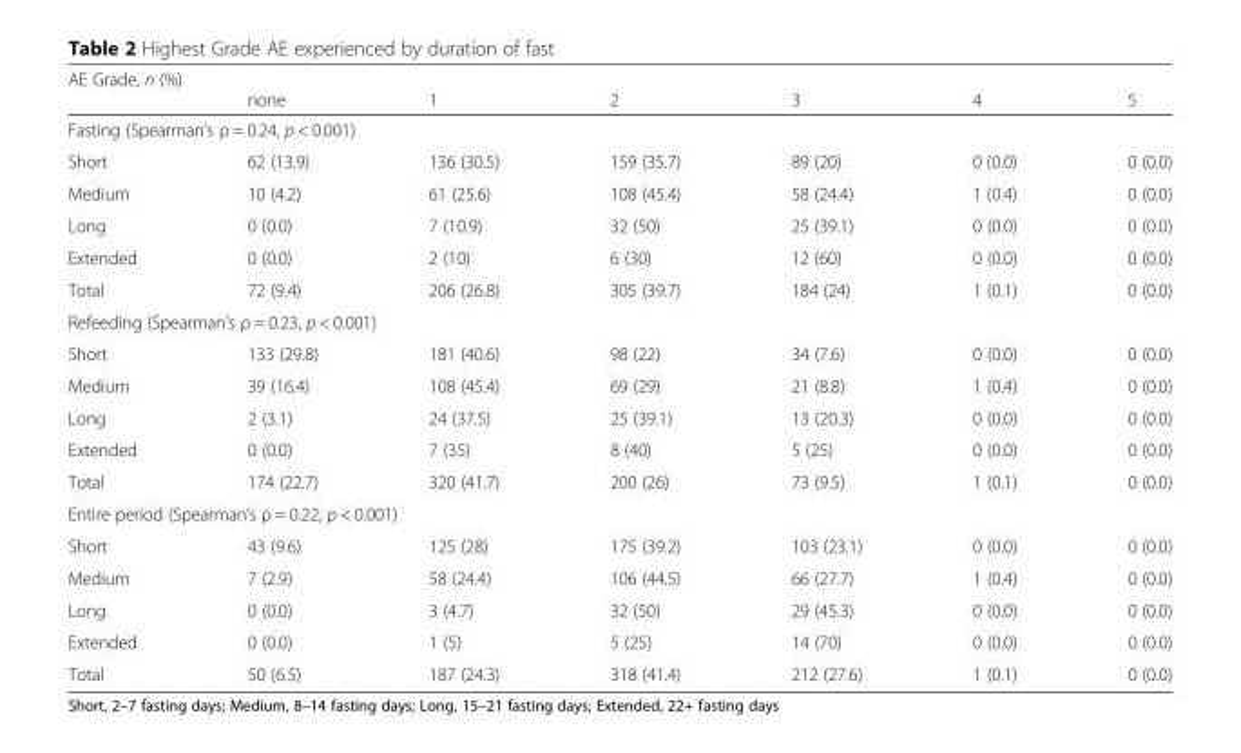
<table><thead><tr><td colspan="7">AE Grade, n (%)</td></tr><tr><td></td><td>none</td><td>1</td><td>2</td><td>3</td><td>4</td><td>5</td></tr></thead><tbody><tr><td colspan="7">Fasting (Spearman’s ρ = 0.24, p &lt; 0.001)</td></tr><tr><td>Short</td><td>62 (13.9)</td><td>136 (30.5)</td><td>159 (35.7)</td><td>89 (20)</td><td>0 (0.0)</td><td>0 (0.0)</td></tr><tr><td>Medium</td><td>10 (4.2)</td><td>61 (25.6)</td><td>108 (45.4)</td><td>58 (24.4)</td><td>1 (0.4)</td><td>0 (0.0)</td></tr><tr><td>Long</td><td>0 (0.0)</td><td>7 (10.9)</td><td>32 (50)</td><td>25 (39.1)</td><td>0 (0.0)</td><td>0 (0.0)</td></tr><tr><td>Extended</td><td>0 (0.0)</td><td>2 (10)</td><td>6 (30)</td><td>12 (60)</td><td>0 (0.0)</td><td>0 (0.0)</td></tr><tr><td>Total</td><td>72 (9.4)</td><td>206 (26.8)</td><td>305 (39.7)</td><td>184 (24)</td><td>1 (0.1)</td><td>0 (0.0)</td></tr><tr><td colspan="7">Refeeding (Spearman’s ρ = 0.23, p &lt; 0.001)</td></tr><tr><td>Short</td><td>133 (29.8)</td><td>181 (40.6)</td><td>98 (22)</td><td>34 (7.6)</td><td>0 (0.0)</td><td>0 (0.0)</td></tr><tr><td>Medium</td><td>39 (16.4)</td><td>108 (45.4)</td><td>69 (29)</td><td>21 (8.8)</td><td>1 (0.4)</td><td>0 (0.0)</td></tr><tr><td>Long</td><td>2 (3.1)</td><td>24 (37.5)</td><td>25 (39.1)</td><td>13 (20.3)</td><td>0 (0.0)</td><td>0 (0.0)</td></tr><tr><td>Extended</td><td>0 (0.0)</td><td>7 (35)</td><td>8 (40)</td><td>5 (25)</td><td>0 (0.0)</td><td>0 (0.0)</td></tr><tr><td>Total</td><td>174 (22.7)</td><td>320 (41.7)</td><td>200 (26)</td><td>73 (9.5)</td><td>1 (0.1)</td><td>0 (0.0)</td></tr><tr><td colspan="7">Entire period (Spearman’s ρ = 0.22, p &lt; 0.001)</td></tr><tr><td>Short</td><td>43 (9.6)</td><td>125 (28)</td><td>175 (39.2)</td><td>103 (23.1)</td><td>0 (0.0)</td><td>0 (0.0)</td></tr><tr><td>Medium</td><td>7 (2.9)</td><td>58 (24.4)</td><td>106 (44.5)</td><td>66 (27.7)</td><td>1 (0.4)</td><td>0 (0.0)</td></tr><tr><td>Long</td><td>0 (0.0)</td><td>3 (4.7)</td><td>32 (50)</td><td>29 (45.3)</td><td>0 (0.0)</td><td>0 (0.0)</td></tr><tr><td>Extended</td><td>0 (0.0)</td><td>1 (5)</td><td>5 (25)</td><td>14 (70)</td><td>0 (0.0)</td><td>0 (0.0)</td></tr><tr><td>Total</td><td>50 (6.5)</td><td>187 (24.3)</td><td>318 (41.4)</td><td>212 (27.6)</td><td>1 (0.1)</td><td>0 (0.0)</td></tr></tbody></table>